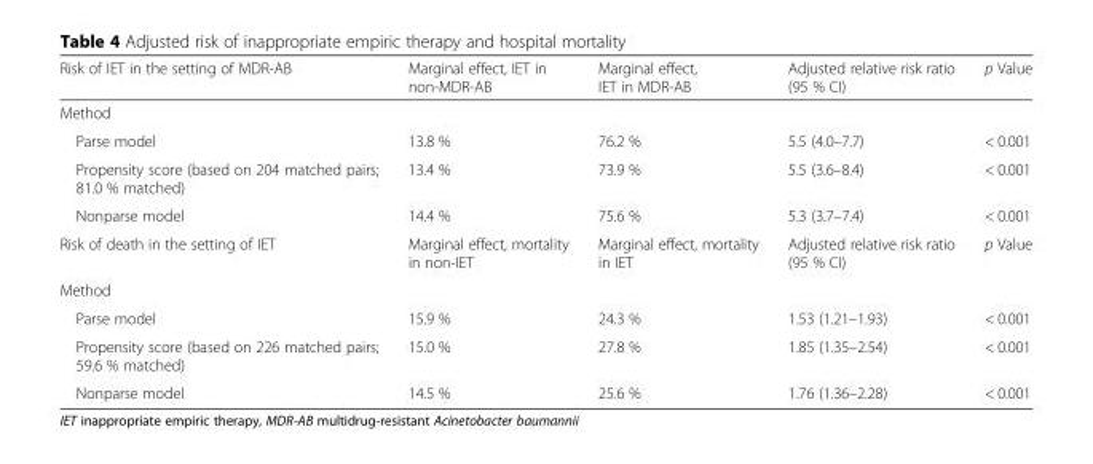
<table><thead><tr><td>Risk of IET in the setting of MDR-AB</td><td>Marginal effect, IET in non-MDR-AB</td><td>Marginal effect, IET in MDR-AB</td><td>Adjusted relative risk ratio (95 % CI)</td><td>p Value</td></tr></thead><tbody><tr><td colspan="5">Method</td></tr><tr><td>Parse model</td><td>13.8 %</td><td>76.2 %</td><td>5.5 (4.0–7.7)</td><td>&lt; 0.001</td></tr><tr><td>Propensity score (based on 204 matched pairs; 81.0 % matched)</td><td>13.4 %</td><td>73.9 %</td><td>5.5 (3.6–8.4)</td><td>&lt; 0.001</td></tr><tr><td>Nonparse model</td><td>14.4 %</td><td>75.6 %</td><td>5.3 (3.7–7.4)</td><td>&lt; 0.001</td></tr><tr><td>Risk of death in the setting of IET</td><td>Marginal effect, mortality in non-IET</td><td>Marginal effect, mortality in IET</td><td>Adjusted relative risk ratio (95 % CI)</td><td>p Value</td></tr><tr><td colspan="5">Method</td></tr><tr><td>Parse model</td><td>15.9 %</td><td>24.3 %</td><td>1.53 (1.21–1.93)</td><td>&lt; 0.001</td></tr><tr><td>Propensity score (based on 226 matched pairs; 59.6 % matched)</td><td>15.0 %</td><td>27.8 %</td><td>1.85 (1.35–2.54)</td><td>&lt; 0.001</td></tr><tr><td>Nonparse model</td><td>14.5 %</td><td>25.6 %</td><td>1.76 (1.36–2.28)</td><td>&lt; 0.001</td></tr></tbody></table>